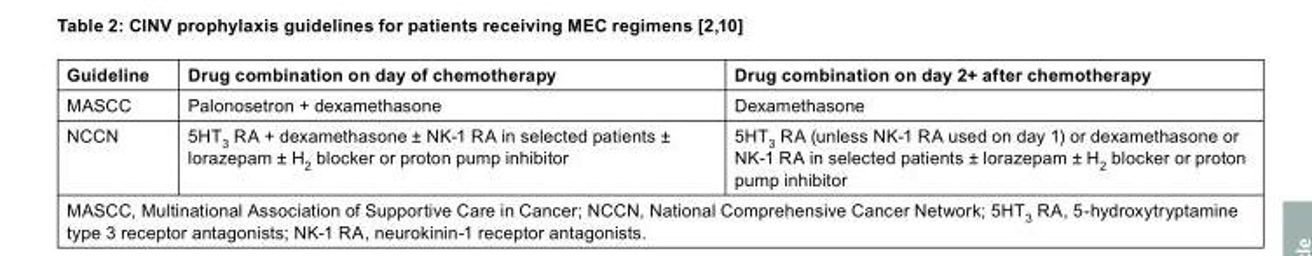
<table><thead><tr><td>Guideline</td><td>Drug combination on day of chemotherapy</td><td>Drug combination on day 2+ after chemotherapy</td></tr></thead><tbody><tr><td>MASCC</td><td>Palonosetron + dexamethasone</td><td>Dexamethasone</td></tr><tr><td>NCCN</td><td>5HT<sub>3</sub> RA + dexamethasone ± NK-1 RA in selected patients ± lorazepam ± H<sub>2</sub> blocker or proton pump inhibitor</td><td>5HT<sub>3</sub> RA (unless NK-1 RA used on day 1) or dexamethasone or NK-1 RA in selected patients ± lorazepam ± H<sub>2</sub> blocker or proton pump inhibitor</td></tr></tbody></table>